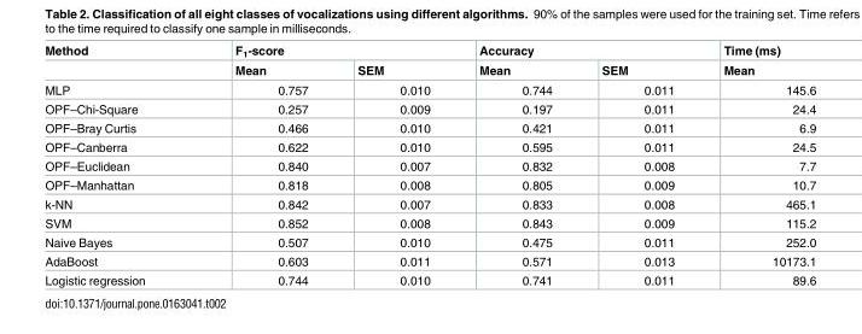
<table><thead><tr><td rowspan="2">Method</td><td colspan="2">F<sub>1</sub>-score</td><td colspan="2">Accuracy</td><td rowspan="2">Time (ms) Mean</td></tr><tr><td>Mean</td><td>SEM</td><td>Mean</td><td>SEM</td></tr></thead><tbody><tr><td>MLP</td><td>0.757</td><td>0.010</td><td>0.744</td><td>0.011</td><td>145.6</td></tr><tr><td>OPF–Chi-Square</td><td>0.257</td><td>0.009</td><td>0.197</td><td>0.011</td><td>24.4</td></tr><tr><td>OPF–Bray Curtis</td><td>0.466</td><td>0.010</td><td>0.421</td><td>0.011</td><td>6.9</td></tr><tr><td>OPF–Canberra</td><td>0.622</td><td>0.010</td><td>0.595</td><td>0.011</td><td>24.5</td></tr><tr><td>OPF–Euclidean</td><td>0.840</td><td>0.007</td><td>0.832</td><td>0.008</td><td>7.7</td></tr><tr><td>OPF–Manhattan</td><td>0.818</td><td>0.008</td><td>0.805</td><td>0.009</td><td>10.7</td></tr><tr><td>k-NN</td><td>0.842</td><td>0.007</td><td>0.833</td><td>0.008</td><td>465.1</td></tr><tr><td>SVM</td><td>0.852</td><td>0.008</td><td>0.843</td><td>0.009</td><td>115.2</td></tr><tr><td>Naive Bayes</td><td>0.507</td><td>0.010</td><td>0.475</td><td>0.011</td><td>252.0</td></tr><tr><td>AdaBoost</td><td>0.603</td><td>0.011</td><td>0.571</td><td>0.013</td><td>10173.1</td></tr><tr><td>Logistic regression</td><td>0.744</td><td>0.010</td><td>0.741</td><td>0.011</td><td>89.6</td></tr></tbody></table>